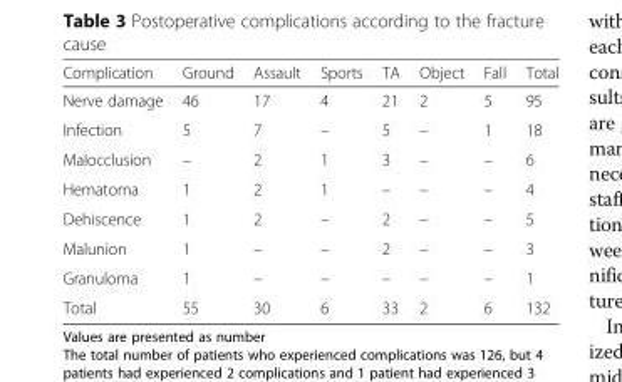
<table><thead><tr><td>Complication</td><td>Ground</td><td>Assault</td><td>Sports</td><td>TA</td><td>Object</td><td>Fall</td><td>Total</td></tr></thead><tbody><tr><td>Nerve damage</td><td>46</td><td>17</td><td>4</td><td>21</td><td>2</td><td>5</td><td>95</td></tr><tr><td>Infection</td><td>5</td><td>7</td><td>–</td><td>5</td><td>–</td><td>1</td><td>18</td></tr><tr><td>Malocclusion</td><td>–</td><td>2</td><td>1</td><td>3</td><td>–</td><td>–</td><td>6</td></tr><tr><td>Hematoma</td><td>1</td><td>2</td><td>1</td><td>–</td><td>–</td><td>–</td><td>4</td></tr><tr><td>Dehiscence</td><td>1</td><td>2</td><td>–</td><td>2</td><td>–</td><td>–</td><td>5</td></tr><tr><td>Malunion</td><td>1</td><td>–</td><td>–</td><td>2</td><td>–</td><td>–</td><td>3</td></tr><tr><td>Granuloma</td><td>1</td><td>–</td><td>–</td><td>–</td><td>–</td><td>–</td><td>1</td></tr><tr><td>Total</td><td>55</td><td>30</td><td>6</td><td>33</td><td>2</td><td>6</td><td>132</td></tr></tbody></table>